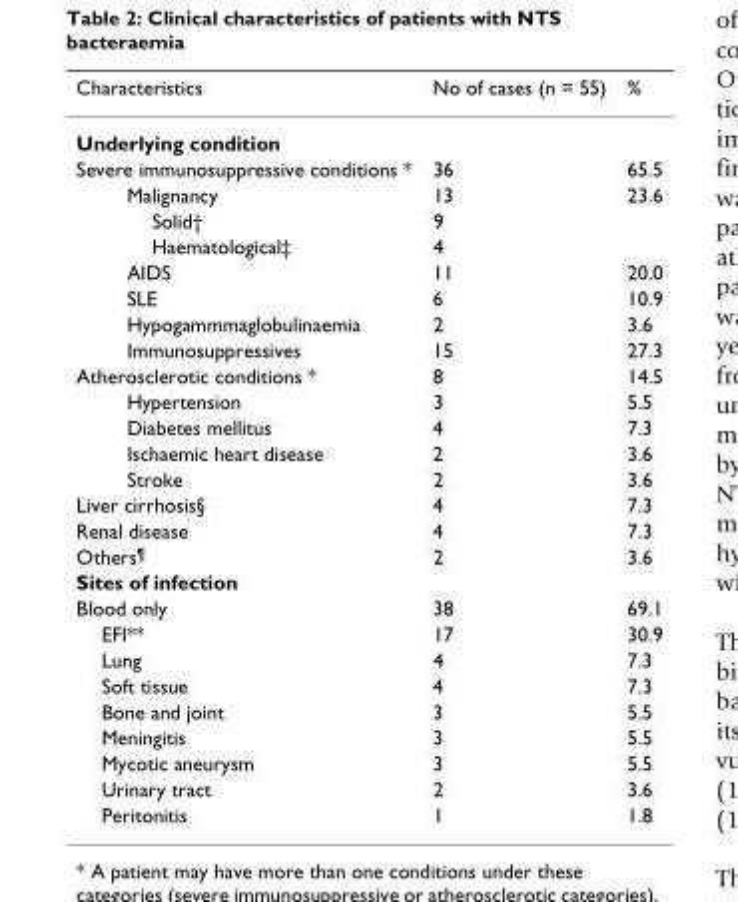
<table><thead><tr><td>Characteristics</td><td>No of cases (n = 55)</td><td>%</td></tr></thead><tbody><tr><td colspan="3">Underlying condition</td></tr><tr><td>Severe immunosuppressive conditions *</td><td>36</td><td>65.5</td></tr><tr><td>Malignancy</td><td>13</td><td>23.6</td></tr><tr><td>Solid†</td><td>9</td><td></td></tr><tr><td>Haematological‡</td><td>4</td><td></td></tr><tr><td>AIDS</td><td>11</td><td>20.0</td></tr><tr><td>SLE</td><td>6</td><td>10.9</td></tr><tr><td>Hypogammmaglobulinaemia</td><td>2</td><td>3.6</td></tr><tr><td>Immunosuppressives</td><td>15</td><td>27.3</td></tr><tr><td>Atherosclerotic conditions *</td><td>8</td><td>14.5</td></tr><tr><td>Hypertension</td><td>3</td><td>5.5</td></tr><tr><td>Diabetes mellitus</td><td>4</td><td>7.3</td></tr><tr><td>Ischaemic heart disease</td><td>2</td><td>3.6</td></tr><tr><td>Stroke</td><td>2</td><td>3.6</td></tr><tr><td>Liver cirrhosis§</td><td>4</td><td>7.3</td></tr><tr><td>Renal disease</td><td>4</td><td>7.3</td></tr><tr><td>Others<sup>¶</sup></td><td>2</td><td>3.6</td></tr><tr><td colspan="3">Sites of infection</td></tr><tr><td>Blood only</td><td>38</td><td>69.1</td></tr><tr><td>EFI**</td><td>17</td><td>30.9</td></tr><tr><td>Lung</td><td>4</td><td>7.3</td></tr><tr><td>Soft tissue</td><td>4</td><td>7.3</td></tr><tr><td>Bone and joint</td><td>3</td><td>5.5</td></tr><tr><td>Meningitis</td><td>3</td><td>5.5</td></tr><tr><td>Mycotic aneurysm</td><td>3</td><td>5.5</td></tr><tr><td>Urinary tract</td><td>2</td><td>3.6</td></tr><tr><td>Peritonitis</td><td>1</td><td>1.8</td></tr></tbody></table>